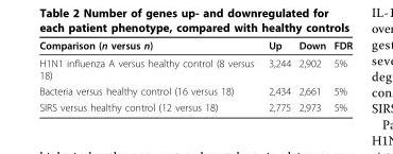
<table><thead><tr><td>Comparison (n versus n)</td><td>Up</td><td>Down</td><td>FDR</td></tr></thead><tbody><tr><td>H1N1 influenza A versus healthy control (8 versus 18)</td><td>3,244</td><td>2,902</td><td>5%</td></tr><tr><td>Bacteria versus healthy control (16 versus 18)</td><td>2,434</td><td>2,661</td><td>5%</td></tr><tr><td>SIRS versus healthy control (12 versus 18)</td><td>2,775</td><td>2,973</td><td>5%</td></tr></tbody></table>